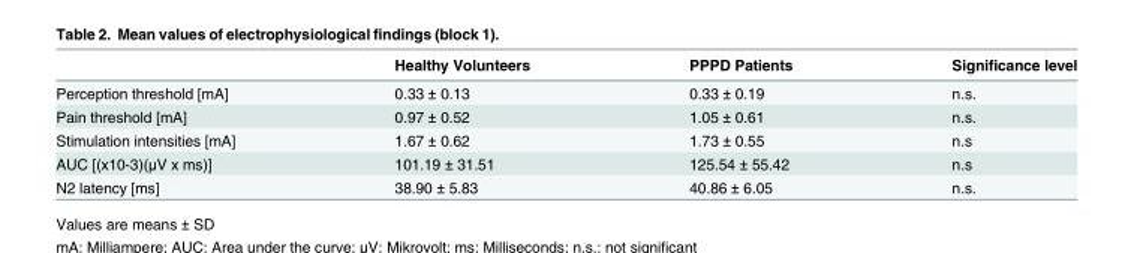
<table><thead><tr><td></td><td>Healthy Volunteers</td><td>PPPD Patients</td><td>Significance level</td></tr></thead><tbody><tr><td>Perception threshold [mA]</td><td>0.33 ± 0.13</td><td>0.33 ± 0.19</td><td>n.s.</td></tr><tr><td>Pain threshold [mA]</td><td>0.97 ± 0.52</td><td>1.05 ± 0.61</td><td>n.s.</td></tr><tr><td>Stimulation intensities [mA]</td><td>1.67 ± 0.62</td><td>1.73 ± 0.55</td><td>n.s</td></tr><tr><td>AUC [(x10-3)(μV x ms)]</td><td>101.19 ± 31.51</td><td>125.54 ± 55.42</td><td>n.s</td></tr><tr><td>N2 latency [ms]</td><td>38.90 ± 5.83</td><td>40.86 ± 6.05</td><td>n.s.</td></tr></tbody></table>